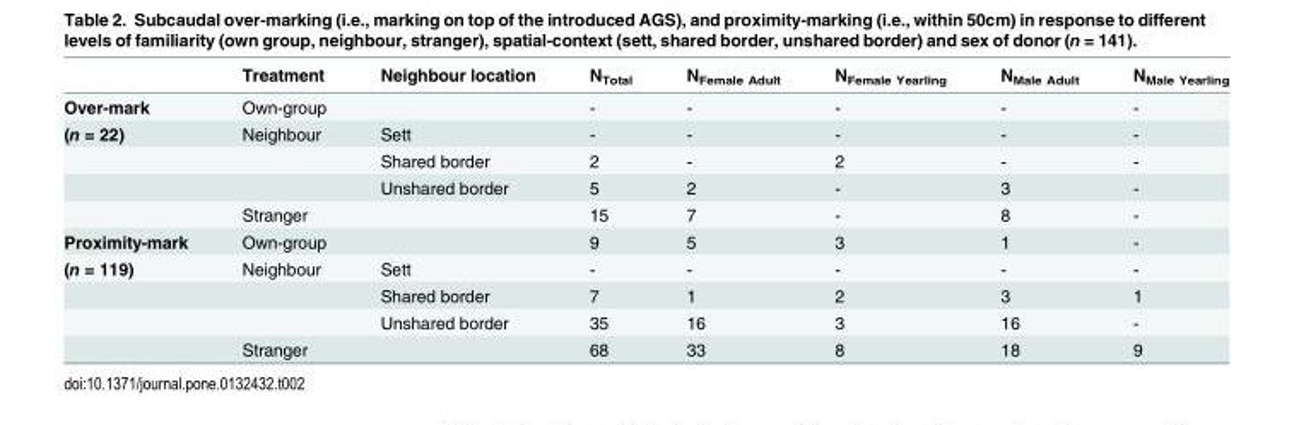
<table><thead><tr><td></td><td>Treatment</td><td>Neighbour location</td><td>N<sub>Total</sub></td><td>N<sub>Female Adult</sub></td><td>N<sub>Female Yearling</sub></td><td>N<sub>Male Adult</sub></td><td>N<sub>Male Yearling</sub></td></tr></thead><tbody><tr><td>Over-mark</td><td>Own-group</td><td></td><td>-</td><td>-</td><td>-</td><td>-</td><td>-</td></tr><tr><td rowspan="4">(n = 22)</td><td>Neighbour</td><td>Sett</td><td>-</td><td>-</td><td>-</td><td>-</td><td>-</td></tr><tr><td></td><td>Shared border</td><td>2</td><td>-</td><td>2</td><td>-</td><td>-</td></tr><tr><td></td><td>Unshared border</td><td>5</td><td>2</td><td>-</td><td>3</td><td>-</td></tr><tr><td>Stranger</td><td></td><td>15</td><td>7</td><td>-</td><td>8</td><td>-</td></tr><tr><td>Proximity-mark</td><td>Own-group</td><td></td><td>9</td><td>5</td><td>3</td><td>1</td><td>-</td></tr><tr><td rowspan="4">(n = 119)</td><td>Neighbour</td><td>Sett</td><td>-</td><td>-</td><td>-</td><td>-</td><td>-</td></tr><tr><td></td><td>Shared border</td><td>7</td><td>1</td><td>2</td><td>3</td><td>1</td></tr><tr><td></td><td>Unshared border</td><td>35</td><td>16</td><td>3</td><td>16</td><td>-</td></tr><tr><td>Stranger</td><td></td><td>68</td><td>33</td><td>8</td><td>18</td><td>9</td></tr></tbody></table>